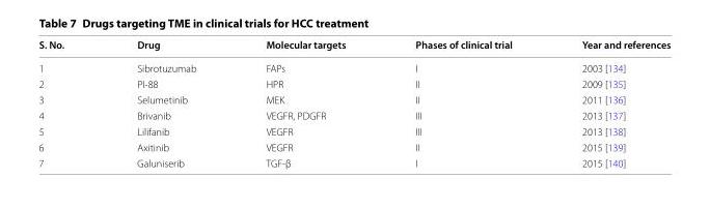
<table><thead><tr><td>S. No.</td><td>Drug</td><td>Molecular targets</td><td>Phases of clinical trial</td><td>Year and references</td></tr></thead><tbody><tr><td>1</td><td>Sibrotuzumab</td><td>FAPs</td><td>I</td><td>2003 [134]</td></tr><tr><td>2</td><td>PI‑88</td><td>HPR</td><td>II</td><td>2009 [135]</td></tr><tr><td>3</td><td>Selumetinib</td><td>MEK</td><td>II</td><td>2011 [136]</td></tr><tr><td>4</td><td>Brivanib</td><td>VEGFR, PDGFR</td><td>III</td><td>2013 [137]</td></tr><tr><td>5</td><td>Lilifanib</td><td>VEGFR</td><td>III</td><td>2013 [138]</td></tr><tr><td>6</td><td>Axitinib</td><td>VEGFR</td><td>II</td><td>2015 [139]</td></tr><tr><td>7</td><td>Galuniserib</td><td>TGF‑β</td><td>I</td><td>2015 [140]</td></tr></tbody></table>